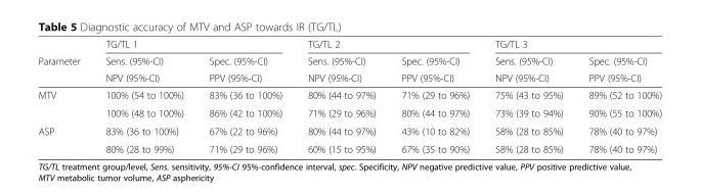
<table><thead><tr><td rowspan="3">Parameter</td><td colspan="2">TG/TL 1</td><td colspan="2">TG/TL 2</td><td colspan="2">TG/TL 3</td></tr><tr><td rowspan="2">Sens. (95%-CI) NPV (95%-CI)</td><td rowspan="2">Spec. (95%-CI) PPV (95%-CI)</td><td rowspan="2">Sens. (95%-CI) NPV (95%-CI)</td><td rowspan="2">Spec. (95%-CI) PPV (95%-CI)</td><td rowspan="2">Sens. (95%-CI) NPV (95%-CI)</td><td rowspan="2">Spec. (95%-CI) PPV (95%-CI)</td></tr><tr></tr></thead><tbody><tr><td rowspan="2">MTV</td><td>100% (54 to 100%)</td><td>83% (36 to 100%)</td><td>80% (44 to 97%)</td><td>71% (29 to 96%)</td><td>75% (43 to 95%)</td><td>89% (52 to 100%)</td></tr><tr><td>100% (48 to 100%)</td><td>86% (42 to 100%)</td><td>71% (29 to 96%)</td><td>80% (44 to 97%)</td><td>73% (39 to 94%)</td><td>90% (55 to 100%)</td></tr><tr><td rowspan="2">ASP</td><td>83% (36 to 100%)</td><td>67% (22 to 96%)</td><td>80% (44 to 97%)</td><td>43% (10 to 82%)</td><td>58% (28 to 85%)</td><td>78% (40 to 97%)</td></tr><tr><td>80% (28 to 99%)</td><td>71% (29 to 96%)</td><td>60% (15 to 95%)</td><td>67% (35 to 90%)</td><td>58% (28 to 85%)</td><td>78% (40 to 97%)</td></tr></tbody></table>